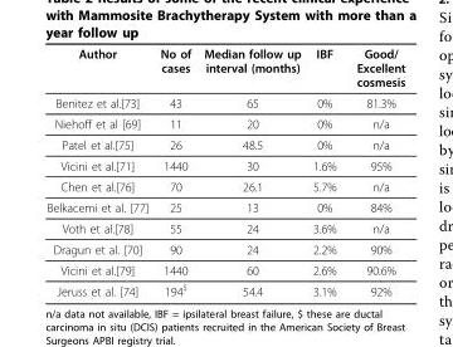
<table><thead><tr><td>Author</td><td>No of cases</td><td>Median follow up interval (months)</td><td>IBF</td><td>Good/ Excellent cosmesis</td></tr></thead><tbody><tr><td>Benitez et al.[73]</td><td>43</td><td>65</td><td>0%</td><td>81.3%</td></tr><tr><td>Niehoff et al [69]</td><td>11</td><td>20</td><td>0%</td><td>n/a</td></tr><tr><td>Patel et al.[75]</td><td>26</td><td>48.5</td><td>0%</td><td>n/a</td></tr><tr><td>Vicini et al.[71]</td><td>1440</td><td>30</td><td>1.6%</td><td>95%</td></tr><tr><td>Chen et al.[76]</td><td>70</td><td>26.1</td><td>5.7%</td><td>n/a</td></tr><tr><td>Belkacemi et al. [77]</td><td>25</td><td>13</td><td>0%</td><td>84%</td></tr><tr><td>Voth et al.[78]</td><td>55</td><td>24</td><td>3.6%</td><td>n/a</td></tr><tr><td>Dragun et al. [70]</td><td>90</td><td>24</td><td>2.2%</td><td>90%</td></tr><tr><td>Vicini et al.[79]</td><td>1440</td><td>60</td><td>2.6%</td><td>90.6%</td></tr><tr><td>Jeruss et al. [74]</td><td>194<sup>$</sup></td><td>54.4</td><td>3.1%</td><td>92%</td></tr></tbody></table>